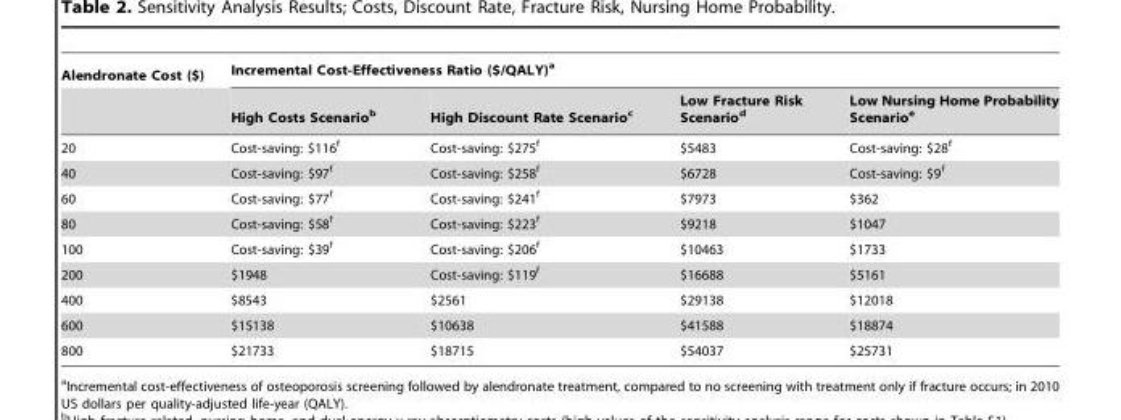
<table><thead><tr><td rowspan="2">Alendronate Cost ($)</td><td colspan="4">Incremental Cost-Effectiveness Ratio ($/QALY)<sup>a</sup></td></tr><tr><td>High Costs Scenario<sup>b</sup></td><td>High Discount Rate Scenario<sup>c</sup></td><td>Low Fracture Risk Scenario<sup>d</sup></td><td>Low Nursing Home Probability Scenario<sup>e</sup></td></tr></thead><tbody><tr><td>20</td><td>Cost-saving: $116<sup>f</sup></td><td>Cost-saving: $275<sup>f</sup></td><td>$5483</td><td>Cost-saving: $28<sup>f</sup></td></tr><tr><td>40</td><td>Cost-saving: $97<sup>f</sup></td><td>Cost-saving: $258<sup>f</sup></td><td>$6728</td><td>Cost-saving: $9<sup>f</sup></td></tr><tr><td>60</td><td>Cost-saving: $77<sup>f</sup></td><td>Cost-saving: $241<sup>f</sup></td><td>$7973</td><td>$362</td></tr><tr><td>80</td><td>Cost-saving: $58<sup>f</sup></td><td>Cost-saving: $223<sup>f</sup></td><td>$9218</td><td>$1047</td></tr><tr><td>100</td><td>Cost-saving: $39<sup>f</sup></td><td>Cost-saving: $206<sup>f</sup></td><td>$10463</td><td>$1733</td></tr><tr><td>200</td><td>$1948</td><td>Cost-saving: $119<sup>f</sup></td><td>$16688</td><td>$5161</td></tr><tr><td>400</td><td>$8543</td><td>$2561</td><td>$29138</td><td>$12018</td></tr><tr><td>600</td><td>$15138</td><td>$10638</td><td>$41588</td><td>$18874</td></tr><tr><td>800</td><td>$21733</td><td>$18715</td><td>$54037</td><td>$25731</td></tr></tbody></table>